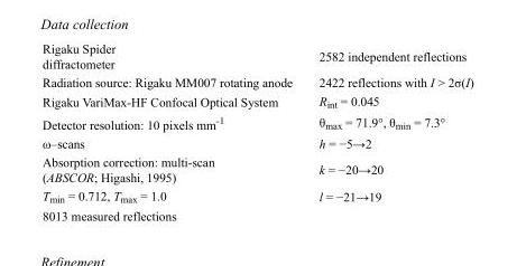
<table><tbody><tr><td>Rigaku Spider diffractometer</td><td>2582 independent reflections</td></tr><tr><td>Radiation source: Rigaku MM007 rotating anode</td><td>2422 reflections with I &gt; 2σ(I)</td></tr><tr><td>Rigaku VariMax-HF Confocal Optical System</td><td>R<sub>int</sub> = 0.045</td></tr><tr><td>Detector resolution: 10 pixels mm<sup>-1</sup></td><td>θ<sub>max</sub> = 71.9°, θ<sub>min</sub> = 7.3°</td></tr><tr><td>ω–scans</td><td>h = −5→2</td></tr><tr><td>Absorption correction: multi-scan (ABSCOR; Higashi, 1995)</td><td>k = −20→20</td></tr><tr><td>T<sub>min</sub> = 0.712, T<sub>max</sub> = 1.0</td><td>l = −21→19</td></tr><tr><td>8013 measured reflections</td><td></td></tr></tbody></table>